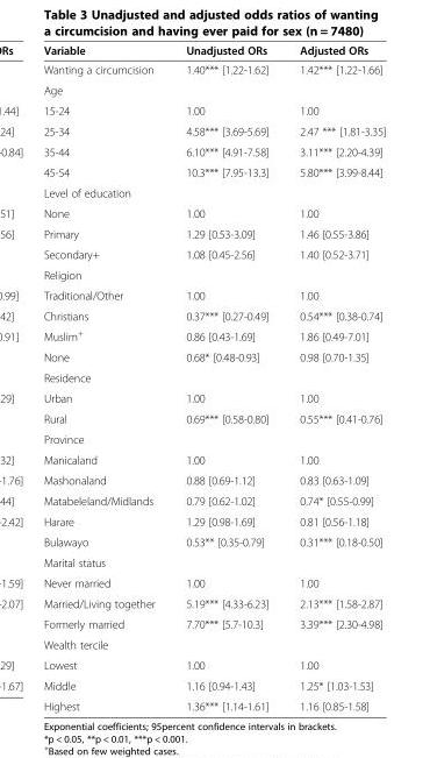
<table><thead><tr><td>Variable</td><td>Unadjusted ORs</td><td>Adjusted ORs</td></tr></thead><tbody><tr><td>Wanting a circumcision</td><td>1.40*** [1.22-1.62]</td><td>1.42*** [1.22-1.66]</td></tr><tr><td colspan="3">Age</td></tr><tr><td>15-24</td><td>1.00</td><td>1.00</td></tr><tr><td>25-34</td><td>4.58*** [3.69-5.69]</td><td>2.47 *** [1.81-3.35]</td></tr><tr><td>35-44</td><td>6.10*** [4.91-7.58]</td><td>3.11*** [2.20-4.39]</td></tr><tr><td>45-54</td><td>10.3*** [7.95-13.3]</td><td>5.80*** [3.99-8.44]</td></tr><tr><td colspan="3">Level of education</td></tr><tr><td>None</td><td>1.00</td><td>1.00</td></tr><tr><td>Primary</td><td>1.29 [0.53-3.09]</td><td>1.46 [0.55-3.86]</td></tr><tr><td>Secondary+</td><td>1.08 [0.45-2.56]</td><td>1.40 [0.52-3.71]</td></tr><tr><td colspan="3">Religion</td></tr><tr><td>Traditional/Other</td><td>1.00</td><td>1.00</td></tr><tr><td>Christians</td><td>0.37*** [0.27-0.49]</td><td>0.54*** [0.38-0.74]</td></tr><tr><td>Muslim<sup>+</sup></td><td>0.86 [0.43-1.69]</td><td>1.86 [0.49-7.01]</td></tr><tr><td>None</td><td>0.68* [0.48-0.93]</td><td>0.98 [0.70-1.35]</td></tr><tr><td colspan="3">Residence</td></tr><tr><td>Urban</td><td>1.00</td><td>1.00</td></tr><tr><td>Rural</td><td>0.69*** [0.58-0.80]</td><td>0.55*** [0.41-0.76]</td></tr><tr><td colspan="3">Province</td></tr><tr><td>Manicaland</td><td>1.00</td><td>1.00</td></tr><tr><td>Mashonaland</td><td>0.88 [0.69-1.12]</td><td>0.83 [0.63-1.09]</td></tr><tr><td>Matabeleland/Midlands</td><td>0.79 [0.62-1.02]</td><td>0.74* [0.55-0.99]</td></tr><tr><td>Harare</td><td>1.29 [0.98-1.69]</td><td>0.81 [0.56-1.18]</td></tr><tr><td>Bulawayo</td><td>0.53** [0.35-0.79]</td><td>0.31*** [0.18-0.50]</td></tr><tr><td colspan="3">Marital status</td></tr><tr><td>Never married</td><td>1.00</td><td>1.00</td></tr><tr><td>Married/Living together</td><td>5.19*** [4.33-6.23]</td><td>2.13*** [1.58-2.87]</td></tr><tr><td>Formerly married</td><td>7.70*** [5.7-10.3]</td><td>3.39*** [2.30-4.98]</td></tr><tr><td colspan="3">Wealth tercile</td></tr><tr><td>Lowest</td><td>1.00</td><td>1.00</td></tr><tr><td>Middle</td><td>1.16 [0.94-1.43]</td><td>1.25* [1.03-1.53]</td></tr><tr><td>Highest</td><td>1.36*** [1.14-1.61]</td><td>1.16 [0.85-1.58]</td></tr></tbody></table>